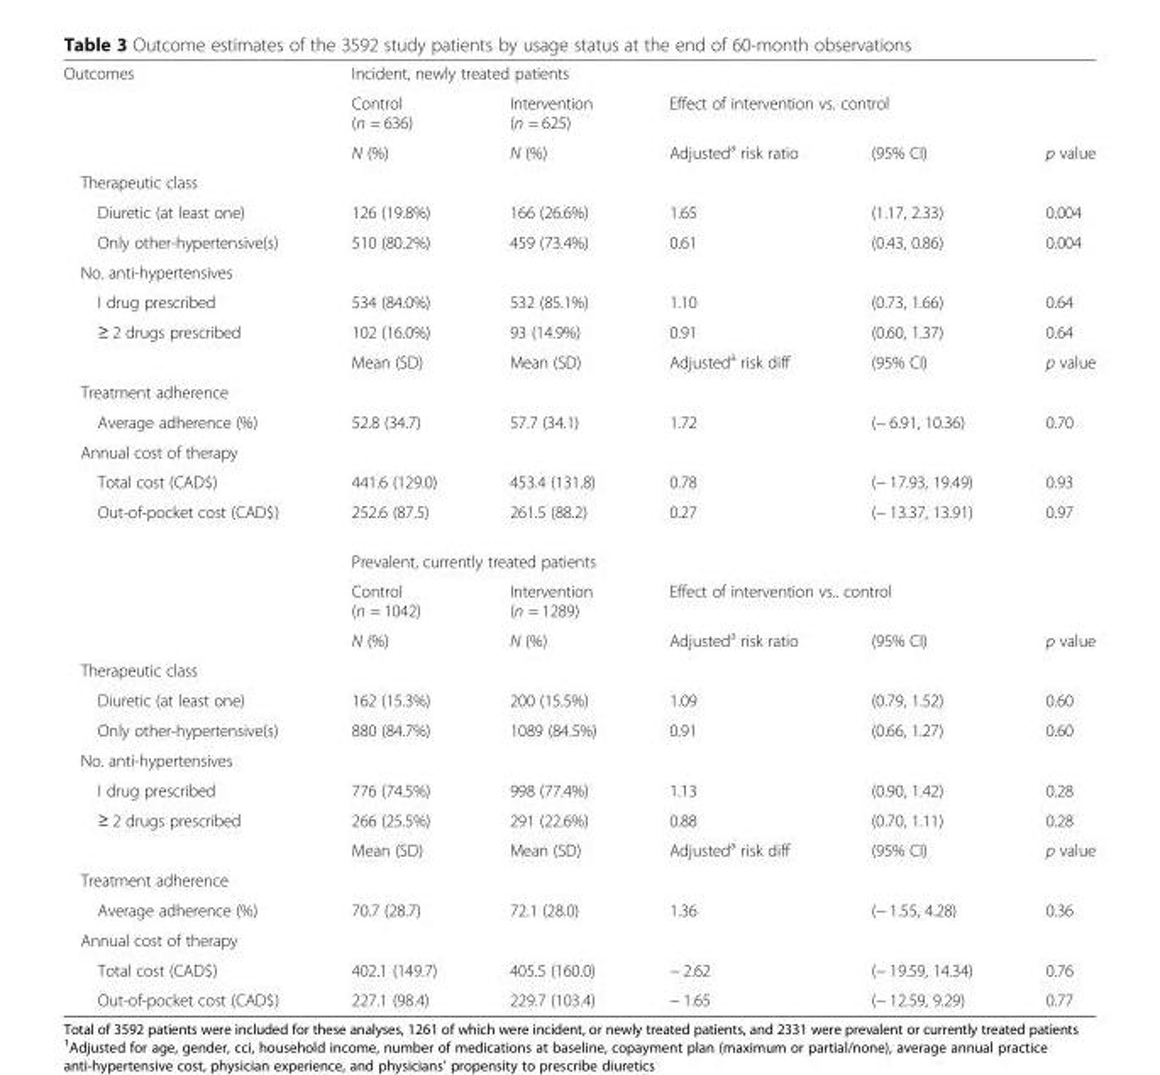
<table><tbody><tr><td rowspan="3">Outcomes</td><td colspan="5">Incident, newly treated patients</td></tr><tr><td>Control (n = 636)</td><td>Intervention (n = 625)</td><td colspan="3">Effect of intervention vs. control</td></tr><tr><td>N (%)</td><td>N (%)</td><td>Adjusted<sup>a</sup> risk ratio</td><td>(95% CI)</td><td>p value</td></tr><tr><td colspan="6">Therapeutic class</td></tr><tr><td>Diuretic (at least one)</td><td>126 (19.8%)</td><td>166 (26.6%)</td><td>1.65</td><td>(1.17, 2.33)</td><td>0.004</td></tr><tr><td>Only other-hypertensive(s)</td><td>510 (80.2%)</td><td>459 (73.4%)</td><td>0.61</td><td>(0.43, 0.86)</td><td>0.004</td></tr><tr><td colspan="6">No. anti-hypertensives</td></tr><tr><td>I drug prescribed</td><td>534 (84.0%)</td><td>532 (85.1%)</td><td>1.10</td><td>(0.73, 1.66)</td><td>0.64</td></tr><tr><td rowspan="2">≥ 2 drugs prescribed</td><td>102 (16.0%)</td><td>93 (14.9%)</td><td>0.91</td><td>(0.60, 1.37)</td><td>0.64</td></tr><tr><td>Mean (SD)</td><td>Mean (SD)</td><td>Adjusted<sup>a</sup> risk diff</td><td>(95% CI)</td><td>p value</td></tr><tr><td colspan="6">Treatment adherence</td></tr><tr><td>Average adherence (%)</td><td>52.8 (34.7)</td><td>57.7 (34.1)</td><td>1.72</td><td>(− 6.91, 10.36)</td><td>0.70</td></tr><tr><td colspan="6">Annual cost of therapy</td></tr><tr><td>Total cost (CAD$)</td><td>441.6 (129.0)</td><td>453.4 (131.8)</td><td>0.78</td><td>(− 17.93, 19.49)</td><td>0.93</td></tr><tr><td rowspan="4">Out-of-pocket cost (CAD$)</td><td>252.6 (87.5)</td><td>261.5 (88.2)</td><td>0.27</td><td>(− 13.37, 13.91)</td><td>0.97</td></tr><tr><td colspan="5">Prevalent, currently treated patients</td></tr><tr><td>Control (n = 1042)</td><td>Intervention (n = 1289)</td><td colspan="3">Effect of intervention vs.. control</td></tr><tr><td>N (%)</td><td>N (%)</td><td>Adjusted<sup>a</sup> risk ratio</td><td>(95% CI)</td><td>p value</td></tr><tr><td colspan="6">Therapeutic class</td></tr><tr><td>Diuretic (at least one)</td><td>162 (15.3%)</td><td>200 (15.5%)</td><td>1.09</td><td>(0.79, 1.52)</td><td>0.60</td></tr><tr><td>Only other-hypertensive(s)</td><td>880 (84.7%)</td><td>1089 (84.5%)</td><td>0.91</td><td>(0.66, 1.27)</td><td>0.60</td></tr><tr><td colspan="6">No. anti-hypertensives</td></tr><tr><td>I drug prescribed</td><td>776 (74.5%)</td><td>998 (77.4%)</td><td>1.13</td><td>(0.90, 1.42)</td><td>0.28</td></tr><tr><td rowspan="2">≥ 2 drugs prescribed</td><td>266 (25.5%)</td><td>291 (22.6%)</td><td>0.88</td><td>(0.70, 1.11)</td><td>0.28</td></tr><tr><td>Mean (SD)</td><td>Mean (SD)</td><td>Adjusted<sup>a</sup> risk diff</td><td>(95% CI)</td><td>p value</td></tr><tr><td colspan="6">Treatment adherence</td></tr><tr><td>Average adherence (%)</td><td>70.7 (28.7)</td><td>72.1 (28.0)</td><td>1.36</td><td>(− 1.55, 4.28)</td><td>0.36</td></tr><tr><td colspan="6">Annual cost of therapy</td></tr><tr><td>Total cost (CAD$)</td><td>402.1 (149.7)</td><td>405.5 (160.0)</td><td>− 2.62</td><td>(− 19.59, 14.34)</td><td>0.76</td></tr><tr><td>Out-of-pocket cost (CAD$)</td><td>227.1 (98.4)</td><td>229.7 (103.4)</td><td>− 1.65</td><td>(− 12.59, 9.29)</td><td>0.77</td></tr></tbody></table>